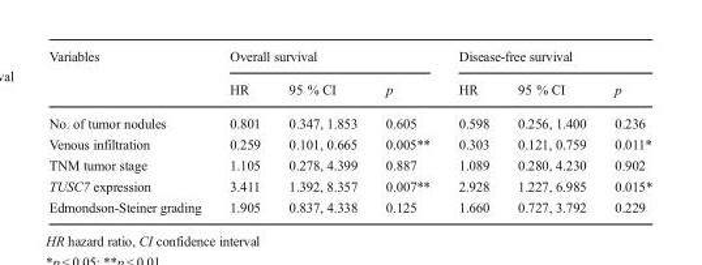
<table><thead><tr><td rowspan="2">Variables</td><td colspan="3">Overall survival</td><td colspan="3">Disease-free survival</td></tr><tr><td>HR</td><td>95 % CI</td><td>p</td><td>HR</td><td>95 % CI</td><td>p</td></tr></thead><tbody><tr><td>No. of tumor nodules</td><td>0.801</td><td>0.347, 1.853</td><td>0.605</td><td>0.598</td><td>0.256, 1.400</td><td>0.236</td></tr><tr><td>Venous infiltration</td><td>0.259</td><td>0.101, 0.665</td><td>0.005**</td><td>0.303</td><td>0.121, 0.759</td><td>0.011*</td></tr><tr><td>TNM tumor stage</td><td>1.105</td><td>0.278, 4.399</td><td>0.887</td><td>1.089</td><td>0.280, 4.230</td><td>0.902</td></tr><tr><td>TUSC7 expression</td><td>3.411</td><td>1.392, 8.357</td><td>0.007**</td><td>2.928</td><td>1.227, 6.985</td><td>0.015*</td></tr><tr><td>Edmondson-Steiner grading</td><td>1.905</td><td>0.837, 4.338</td><td>0.125</td><td>1.660</td><td>0.727, 3.792</td><td>0.229</td></tr></tbody></table>